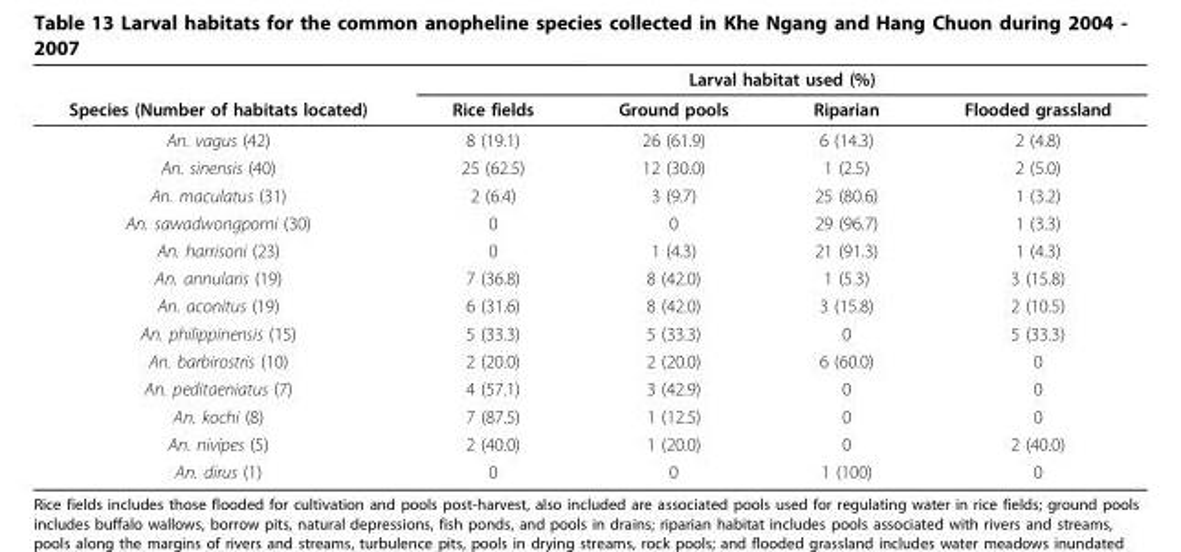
<table><thead><tr><td rowspan="2">Species (Number of habitats located)</td><td colspan="4">Larval habitat used (%)</td></tr><tr><td>Rice fields</td><td>Ground pools</td><td>Riparian</td><td>Flooded grassland</td></tr></thead><tbody><tr><td>An. vagus (42)</td><td>8 (19.1)</td><td>26 (61.9)</td><td>6 (14.3)</td><td>2 (4.8)</td></tr><tr><td>An. sinensis (40)</td><td>25 (62.5)</td><td>12 (30.0)</td><td>1 (2.5)</td><td>2 (5.0)</td></tr><tr><td>An. maculatus (31)</td><td>2 (6.4)</td><td>3 (9.7)</td><td>25 (80.6)</td><td>1 (3.2)</td></tr><tr><td>An. sawadwongporni (30)</td><td>0</td><td>0</td><td>29 (96.7)</td><td>1 (3.3)</td></tr><tr><td>An. harrisoni (23)</td><td>0</td><td>1 (4.3)</td><td>21 (91.3)</td><td>1 (4.3)</td></tr><tr><td>An. annularis (19)</td><td>7 (36.8)</td><td>8 (42.0)</td><td>1 (5.3)</td><td>3 (15.8)</td></tr><tr><td>An. aconitus (19)</td><td>6 (31.6)</td><td>8 (42.0)</td><td>3 (15.8)</td><td>2 (10.5)</td></tr><tr><td>An. philippinensis (15)</td><td>5 (33.3)</td><td>5 (33.3)</td><td>0</td><td>5 (33.3)</td></tr><tr><td>An. barbirostris (10)</td><td>2 (20.0)</td><td>2 (20.0)</td><td>6 (60.0)</td><td>0</td></tr><tr><td>An. peditaeniatus (7)</td><td>4 (57.1)</td><td>3 (42.9)</td><td>0</td><td>0</td></tr><tr><td>An. kochi (8)</td><td>7 (87.5)</td><td>1 (12.5)</td><td>0</td><td>0</td></tr><tr><td>An. nivipes (5)</td><td>2 (40.0)</td><td>1 (20.0)</td><td>0</td><td>2 (40.0)</td></tr><tr><td>An. dirus (1)</td><td>0</td><td>0</td><td>1 (100)</td><td>0</td></tr></tbody></table>